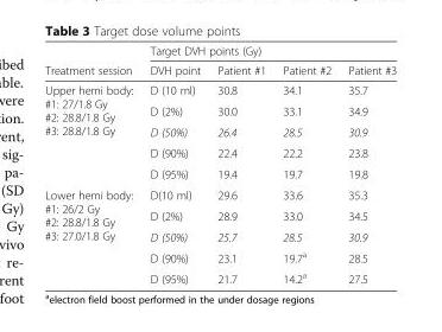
<table><thead><tr><td rowspan="2">Treatment session</td><td colspan="4">Target DVH points (Gy)</td></tr><tr><td>DVH point</td><td>Patient #1</td><td>Patient #2</td><td>Patient #3</td></tr></thead><tbody><tr><td rowspan="5">Upper hemi body: #1: 27/1.8 Gy #2: 28.8/1.8 Gy #3: 28.8/1.8 Gy</td><td>D (10 ml)</td><td>30.8</td><td>34.1</td><td>35.7</td></tr><tr><td>D (2%)</td><td>30.0</td><td>33.1</td><td>34.9</td></tr><tr><td>D (50%)</td><td>26.4</td><td>28.5</td><td>30.9</td></tr><tr><td>D (90%)</td><td>22.4</td><td>22.2</td><td>23.8</td></tr><tr><td>D (95%)</td><td>19.4</td><td>19.7</td><td>19.8</td></tr><tr><td rowspan="5">Lower hemi body: #1: 26/2 Gy #2: 28.8/1.8 Gy #3: 27.0/1.8 Gy</td><td>D(10 ml)</td><td>29.6</td><td>33.6</td><td>35.3</td></tr><tr><td>D (2%)</td><td>28.9</td><td>33.0</td><td>34.5</td></tr><tr><td>D (50%)</td><td>25.7</td><td>28.5</td><td>30.9</td></tr><tr><td>D (90%)</td><td>23.1</td><td>19.7<sup>a</sup></td><td>28.5</td></tr><tr><td>D (95%)</td><td>21.7</td><td>14.2<sup>a</sup></td><td>27.5</td></tr></tbody></table>